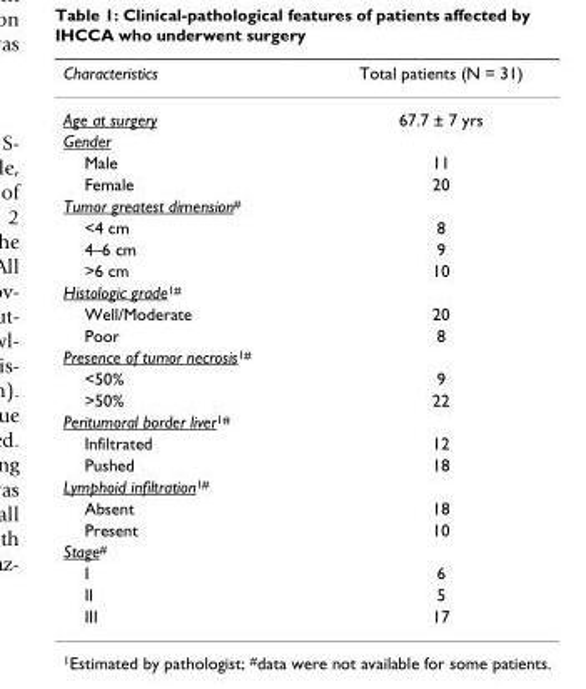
<table><thead><tr><td>Characteristics</td><td>Total patients (N = 31)</td></tr></thead><tbody><tr><td>Age at surgery</td><td>67.7 ± 7 yrs</td></tr><tr><td colspan="2">Gender</td></tr><tr><td>Male</td><td>11</td></tr><tr><td>Female</td><td>20</td></tr><tr><td colspan="2">Tumor greatest dimension<sup>#</sup></td></tr><tr><td>&lt;4 cm</td><td>8</td></tr><tr><td>4–6 cm</td><td>9</td></tr><tr><td>&gt;6 cm</td><td>10</td></tr><tr><td colspan="2">Histologic grade<sup>1#</sup></td></tr><tr><td>Well/Moderate</td><td>20</td></tr><tr><td>Poor</td><td>8</td></tr><tr><td colspan="2">Presence of tumor necrosis<sup>1#</sup></td></tr><tr><td>&lt;50%</td><td>9</td></tr><tr><td>&gt;50%</td><td>22</td></tr><tr><td colspan="2">Peritumoral border liver<sup>1#</sup></td></tr><tr><td>Infiltrated</td><td>12</td></tr><tr><td>Pushed</td><td>18</td></tr><tr><td colspan="2">Lymphoid infiltration<sup>1#</sup></td></tr><tr><td>Absent</td><td>18</td></tr><tr><td>Present</td><td>10</td></tr><tr><td colspan="2">Stage<sup>#</sup></td></tr><tr><td>I</td><td>6</td></tr><tr><td>II</td><td>5</td></tr><tr><td>III</td><td>17</td></tr></tbody></table>